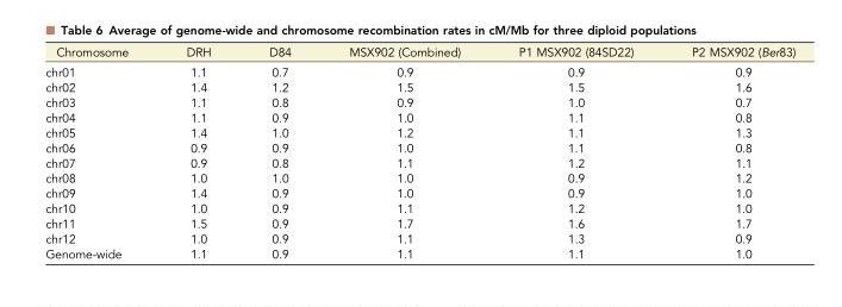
<table><thead><tr><td>Chromosome</td><td>DRH</td><td>D84</td><td>MSX902 (Combined)</td><td>P1 MSX902 (84SD22)</td><td>P2 MSX902 (Ber83)</td></tr></thead><tbody><tr><td>chr01</td><td>1.1</td><td>0.7</td><td>0.9</td><td>0.9</td><td>0.9</td></tr><tr><td>chr02</td><td>1.4</td><td>1.2</td><td>1.5</td><td>1.5</td><td>1.6</td></tr><tr><td>chr03</td><td>1.1</td><td>0.8</td><td>0.9</td><td>1.0</td><td>0.7</td></tr><tr><td>chr04</td><td>1.1</td><td>0.9</td><td>1.0</td><td>1.1</td><td>0.8</td></tr><tr><td>chr05</td><td>1.4</td><td>1.0</td><td>1.2</td><td>1.1</td><td>1.3</td></tr><tr><td>chr06</td><td>0.9</td><td>0.9</td><td>1.0</td><td>1.1</td><td>0.8</td></tr><tr><td>chr07</td><td>0.9</td><td>0.8</td><td>1.1</td><td>1.2</td><td>1.1</td></tr><tr><td>chr08</td><td>1.0</td><td>1.0</td><td>1.0</td><td>0.9</td><td>1.2</td></tr><tr><td>chr09</td><td>1.4</td><td>0.9</td><td>1.0</td><td>0.9</td><td>1.0</td></tr><tr><td>chr10</td><td>1.0</td><td>0.9</td><td>1.1</td><td>1.2</td><td>1.0</td></tr><tr><td>chr11</td><td>1.5</td><td>0.9</td><td>1.7</td><td>1.6</td><td>1.7</td></tr><tr><td>chr12</td><td>1.0</td><td>0.9</td><td>1.1</td><td>1.3</td><td>0.9</td></tr><tr><td>Genome-wide</td><td>1.1</td><td>0.9</td><td>1.1</td><td>1.1</td><td>1.0</td></tr></tbody></table>